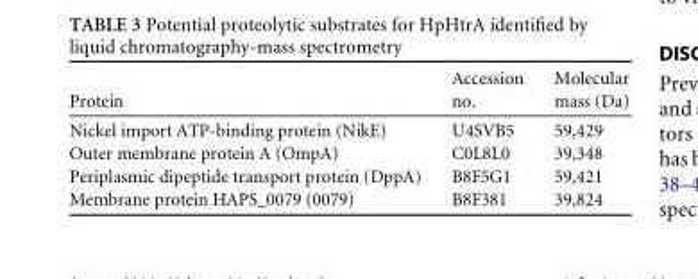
<table><thead><tr><td>Protein</td><td>Accession no.</td><td>Molecular mass (Da)</td></tr></thead><tbody><tr><td>Nickel import ATP-binding protein (NikE)</td><td>U4SVB5</td><td>59,429</td></tr><tr><td>Outer membrane protein A (OmpA)</td><td>C0L8L0</td><td>39,348</td></tr><tr><td>Periplasmic dipeptide transport protein (DppA)</td><td>B8F5G1</td><td>59,421</td></tr><tr><td>Membrane protein HAPS_0079 (0079)</td><td>B8F381</td><td>39,824</td></tr></tbody></table>